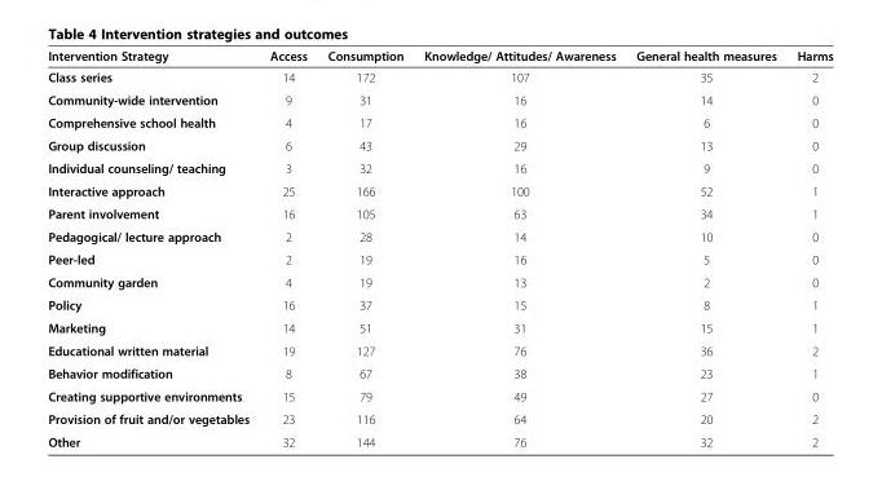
<table><thead><tr><td>Intervention Strategy</td><td>Access</td><td>Consumption</td><td>Knowledge/ Attitudes/ Awareness</td><td>General health measures</td><td>Harms</td></tr></thead><tbody><tr><td>Class series</td><td>14</td><td>172</td><td>107</td><td>35</td><td>2</td></tr><tr><td>Community-wide intervention</td><td>9</td><td>31</td><td>16</td><td>14</td><td>0</td></tr><tr><td>Comprehensive school health</td><td>4</td><td>17</td><td>16</td><td>6</td><td>0</td></tr><tr><td>Group discussion</td><td>6</td><td>43</td><td>29</td><td>13</td><td>0</td></tr><tr><td>Individual counseling/ teaching</td><td>3</td><td>32</td><td>16</td><td>9</td><td>0</td></tr><tr><td>Interactive approach</td><td>25</td><td>166</td><td>100</td><td>52</td><td>1</td></tr><tr><td>Parent involvement</td><td>16</td><td>105</td><td>63</td><td>34</td><td>1</td></tr><tr><td>Pedagogical/ lecture approach</td><td>2</td><td>28</td><td>14</td><td>10</td><td>0</td></tr><tr><td>Peer-led</td><td>2</td><td>19</td><td>16</td><td>5</td><td>0</td></tr><tr><td>Community garden</td><td>4</td><td>19</td><td>13</td><td>2</td><td>0</td></tr><tr><td>Policy</td><td>16</td><td>37</td><td>15</td><td>8</td><td>1</td></tr><tr><td>Marketing</td><td>14</td><td>51</td><td>31</td><td>15</td><td>1</td></tr><tr><td>Educational written material</td><td>19</td><td>127</td><td>76</td><td>36</td><td>2</td></tr><tr><td>Behavior modification</td><td>8</td><td>67</td><td>38</td><td>23</td><td>1</td></tr><tr><td>Creating supportive environments</td><td>15</td><td>79</td><td>49</td><td>27</td><td>0</td></tr><tr><td>Provision of fruit and/or vegetables</td><td>23</td><td>116</td><td>64</td><td>20</td><td>2</td></tr><tr><td>Other</td><td>32</td><td>144</td><td>76</td><td>32</td><td>2</td></tr></tbody></table>